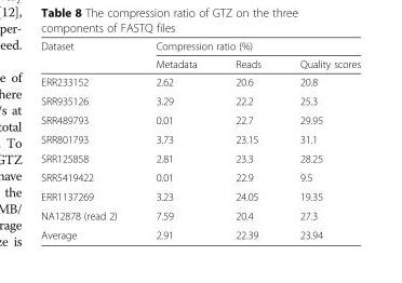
<table><thead><tr><td rowspan="2">Dataset</td><td colspan="3">Compression ratio (%)</td></tr><tr><td>Metadata</td><td>Reads</td><td>Quality scores</td></tr></thead><tbody><tr><td>ERR233152</td><td>2.62</td><td>20.6</td><td>20.8</td></tr><tr><td>SRR935126</td><td>3.29</td><td>22.2</td><td>25.3</td></tr><tr><td>SRR489793</td><td>0.01</td><td>22.7</td><td>29.95</td></tr><tr><td>SRR801793</td><td>3.73</td><td>23.15</td><td>31.1</td></tr><tr><td>SRR125858</td><td>2.81</td><td>23.3</td><td>28.25</td></tr><tr><td>SRR5419422</td><td>0.01</td><td>22.9</td><td>9.5</td></tr><tr><td>ERR1137269</td><td>3.23</td><td>24.05</td><td>19.35</td></tr><tr><td>NA12878 (read 2)</td><td>7.59</td><td>20.4</td><td>27.3</td></tr><tr><td>Average</td><td>2.91</td><td>22.39</td><td>23.94</td></tr></tbody></table>